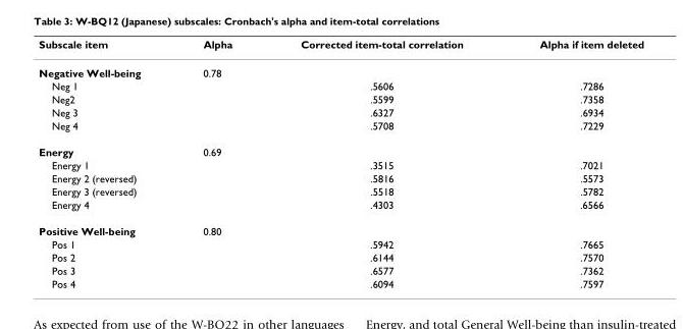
<table><thead><tr><td>Subscale item</td><td>Alpha</td><td>Corrected item-total correlation</td><td>Alpha if item deleted</td></tr></thead><tbody><tr><td>Negative Well-being</td><td>0.78</td><td></td><td></td></tr><tr><td>Neg 1</td><td></td><td>.5606</td><td>.7286</td></tr><tr><td>Neg2</td><td></td><td>.5599</td><td>.7358</td></tr><tr><td>Neg 3</td><td></td><td>.6327</td><td>.6934</td></tr><tr><td>Neg 4</td><td></td><td>.5708</td><td>.7229</td></tr><tr><td>Energy</td><td>0.69</td><td></td><td></td></tr><tr><td>Energy 1</td><td></td><td>.3515</td><td>.7021</td></tr><tr><td>Energy 2 (reversed)</td><td></td><td>.5816</td><td>.5573</td></tr><tr><td>Energy 3 (reversed)</td><td></td><td>.5518</td><td>.5782</td></tr><tr><td>Energy 4</td><td></td><td>.4303</td><td>.6566</td></tr><tr><td>Positive Well-being</td><td>0.80</td><td></td><td></td></tr><tr><td>Pos 1</td><td></td><td>.5942</td><td>.7665</td></tr><tr><td>Pos 2</td><td></td><td>.6144</td><td>.7570</td></tr><tr><td>Pos 3</td><td></td><td>.6577</td><td>.7362</td></tr><tr><td>Pos 4</td><td></td><td>.6094</td><td>.7597</td></tr></tbody></table>